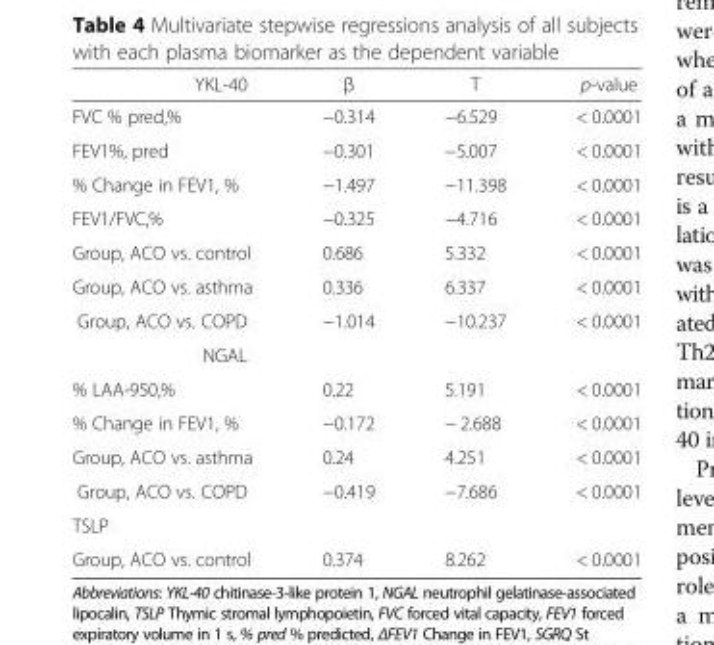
<table><thead><tr><td>YKL-40</td><td>β</td><td>T</td><td>p-value</td></tr></thead><tbody><tr><td>FVC % pred,%</td><td>−0.314</td><td>−6.529</td><td>&lt; 0.0001</td></tr><tr><td>FEV1%, pred</td><td>−0.301</td><td>−5.007</td><td>&lt; 0.0001</td></tr><tr><td>% Change in FEV1, %</td><td>−1.497</td><td>−11.398</td><td>&lt; 0.0001</td></tr><tr><td>FEV1/FVC,%</td><td>−0.325</td><td>−4.716</td><td>&lt; 0.0001</td></tr><tr><td>Group, ACO vs. control</td><td>0.686</td><td>5.332</td><td>&lt; 0.0001</td></tr><tr><td>Group, ACO vs. asthma</td><td>0.336</td><td>6.337</td><td>&lt; 0.0001</td></tr><tr><td>Group, ACO vs. COPD</td><td>−1.014</td><td>−10.237</td><td>&lt; 0.0001</td></tr><tr><td colspan="4">NGAL</td></tr><tr><td>% LAA-950,%</td><td>0.22</td><td>5.191</td><td>&lt; 0.0001</td></tr><tr><td>% Change in FEV1, %</td><td>−0.172</td><td>− 2.688</td><td>&lt; 0.0001</td></tr><tr><td>Group, ACO vs. asthma</td><td>0.24</td><td>4.251</td><td>&lt; 0.0001</td></tr><tr><td>Group, ACO vs. COPD</td><td>−0.419</td><td>−7.686</td><td>&lt; 0.0001</td></tr><tr><td colspan="4">TSLP</td></tr><tr><td>Group, ACO vs. control</td><td>0.374</td><td>8.262</td><td>&lt; 0.0001</td></tr></tbody></table>